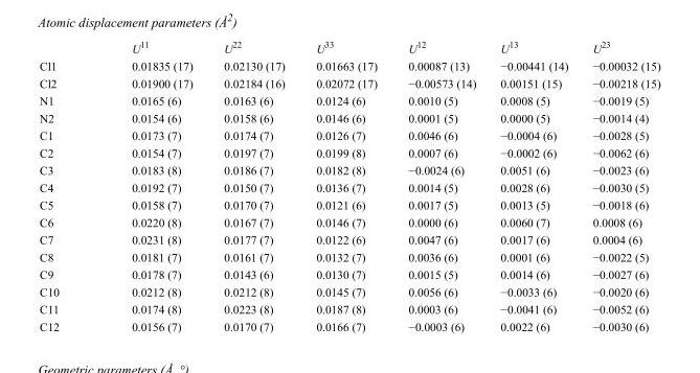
<table><thead><tr><td></td><td>U<sup>11</sup></td><td>U<sup>22</sup></td><td>U<sup>33</sup></td><td>U<sup>12</sup></td><td>U<sup>13</sup></td><td>U<sup>23</sup></td></tr></thead><tbody><tr><td>Cl1</td><td>0.01835 (17)</td><td>0.02130 (17)</td><td>0.01663 (17)</td><td>0.00087 (13)</td><td>−0.00441 (14)</td><td>−0.00032 (15)</td></tr><tr><td>Cl2</td><td>0.01900 (17)</td><td>0.02184 (16)</td><td>0.02072 (17)</td><td>−0.00573 (14)</td><td>0.00151 (15)</td><td>−0.00218 (15)</td></tr><tr><td>N1</td><td>0.0165 (6)</td><td>0.0163 (6)</td><td>0.0124 (6)</td><td>0.0010 (5)</td><td>0.0008 (5)</td><td>−0.0019 (5)</td></tr><tr><td>N2</td><td>0.0154 (6)</td><td>0.0158 (6)</td><td>0.0146 (6)</td><td>0.0001 (5)</td><td>0.0000 (5)</td><td>−0.0014 (4)</td></tr><tr><td>C1</td><td>0.0173 (7)</td><td>0.0174 (7)</td><td>0.0126 (7)</td><td>0.0046 (6)</td><td>−0.0004 (6)</td><td>−0.0028 (5)</td></tr><tr><td>C2</td><td>0.0154 (7)</td><td>0.0197 (7)</td><td>0.0199 (8)</td><td>0.0007 (6)</td><td>−0.0002 (6)</td><td>−0.0062 (6)</td></tr><tr><td>C3</td><td>0.0183 (8)</td><td>0.0186 (7)</td><td>0.0182 (8)</td><td>−0.0024 (6)</td><td>0.0051 (6)</td><td>−0.0023 (6)</td></tr><tr><td>C4</td><td>0.0192 (7)</td><td>0.0150 (7)</td><td>0.0136 (7)</td><td>0.0014 (5)</td><td>0.0028 (6)</td><td>−0.0030 (5)</td></tr><tr><td>C5</td><td>0.0158 (7)</td><td>0.0170 (7)</td><td>0.0121 (6)</td><td>0.0017 (5)</td><td>0.0013 (5)</td><td>−0.0018 (6)</td></tr><tr><td>C6</td><td>0.0220 (8)</td><td>0.0167 (7)</td><td>0.0146 (7)</td><td>0.0000 (6)</td><td>0.0060 (7)</td><td>0.0008 (6)</td></tr><tr><td>C7</td><td>0.0231 (8)</td><td>0.0177 (7)</td><td>0.0122 (6)</td><td>0.0047 (6)</td><td>0.0017 (6)</td><td>0.0004 (6)</td></tr><tr><td>C8</td><td>0.0181 (7)</td><td>0.0161 (7)</td><td>0.0132 (7)</td><td>0.0036 (6)</td><td>0.0001 (6)</td><td>−0.0022 (5)</td></tr><tr><td>C9</td><td>0.0178 (7)</td><td>0.0143 (6)</td><td>0.0130 (7)</td><td>0.0015 (5)</td><td>0.0014 (6)</td><td>−0.0027 (6)</td></tr><tr><td>C10</td><td>0.0212 (8)</td><td>0.0212 (8)</td><td>0.0145 (7)</td><td>0.0056 (6)</td><td>−0.0033 (6)</td><td>−0.0020 (6)</td></tr><tr><td>C11</td><td>0.0174 (8)</td><td>0.0223 (8)</td><td>0.0187 (8)</td><td>0.0003 (6)</td><td>−0.0041 (6)</td><td>−0.0052 (6)</td></tr><tr><td>C12</td><td>0.0156 (7)</td><td>0.0170 (7)</td><td>0.0166 (7)</td><td>−0.0003 (6)</td><td>0.0022 (6)</td><td>−0.0030 (6)</td></tr></tbody></table>